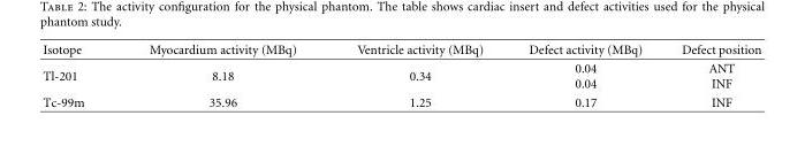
<table><thead><tr><td>Isotope</td><td>Myocardium activity (MBq)</td><td>Ventricle activity (MBq)</td><td>Defect activity (MBq)</td><td>Defect position</td></tr></thead><tbody><tr><td>Tl-201</td><td>8.18</td><td>0.34</td><td>0.04 0.04</td><td>ANT INF</td></tr><tr><td>Tc-99m</td><td>35.96</td><td>1.25</td><td>0.17</td><td>INF</td></tr></tbody></table>